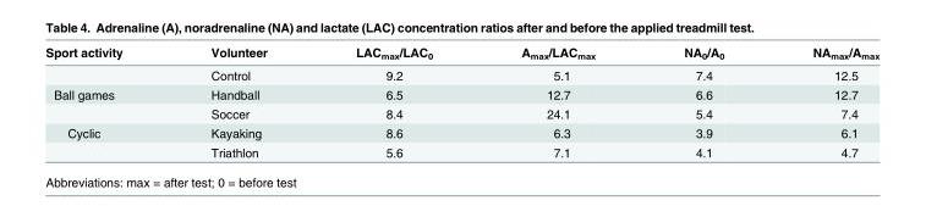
<table><thead><tr><td>Sport activity</td><td>Volunteer</td><td>LAC<sub>max</sub>/LAC<sub>0</sub></td><td>A<sub>max</sub>/LAC<sub>max</sub></td><td>NA<sub>0</sub>/A<sub>0</sub></td><td>NA<sub>max</sub>/A<sub>max</sub></td></tr></thead><tbody><tr><td></td><td>Control</td><td>9.2</td><td>5.1</td><td>7.4</td><td>12.5</td></tr><tr><td rowspan="2">Ball games</td><td>Handball</td><td>6.5</td><td>12.7</td><td>6.6</td><td>12.7</td></tr><tr><td>Soccer</td><td>8.4</td><td>24.1</td><td>5.4</td><td>7.4</td></tr><tr><td rowspan="2">Cyclic</td><td>Kayaking</td><td>8.6</td><td>6.3</td><td>3.9</td><td>6.1</td></tr><tr><td>Triathlon</td><td>5.6</td><td>7.1</td><td>4.1</td><td>4.7</td></tr></tbody></table>